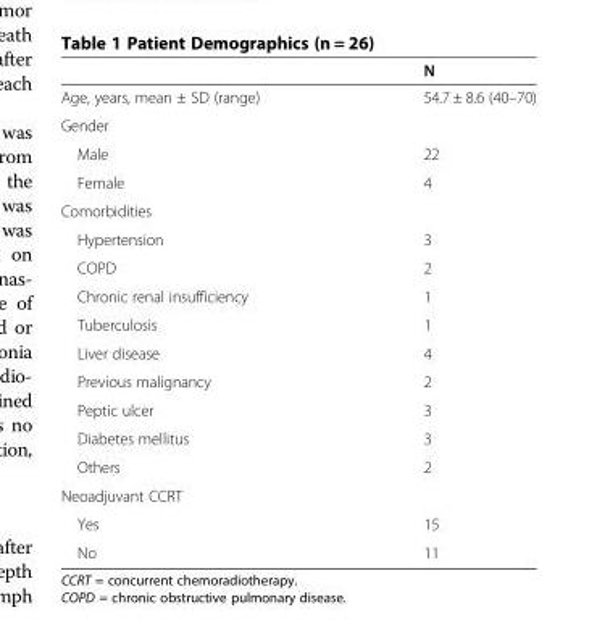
<table><thead><tr><td></td><td>N</td></tr></thead><tbody><tr><td>Age, years, mean ± SD (range)</td><td>54.7 ± 8.6 (40–70)</td></tr><tr><td colspan="2">Gender</td></tr><tr><td>Male</td><td>22</td></tr><tr><td>Female</td><td>4</td></tr><tr><td colspan="2">Comorbidities</td></tr><tr><td>Hypertension</td><td>3</td></tr><tr><td>COPD</td><td>2</td></tr><tr><td>Chronic renal insufficiency</td><td>1</td></tr><tr><td>Tuberculosis</td><td>1</td></tr><tr><td>Liver disease</td><td>4</td></tr><tr><td>Previous malignancy</td><td>2</td></tr><tr><td>Peptic ulcer</td><td>3</td></tr><tr><td>Diabetes mellitus</td><td>3</td></tr><tr><td>Others</td><td>2</td></tr><tr><td colspan="2">Neoadjuvant CCRT</td></tr><tr><td>Yes</td><td>15</td></tr><tr><td>No</td><td>11</td></tr></tbody></table>